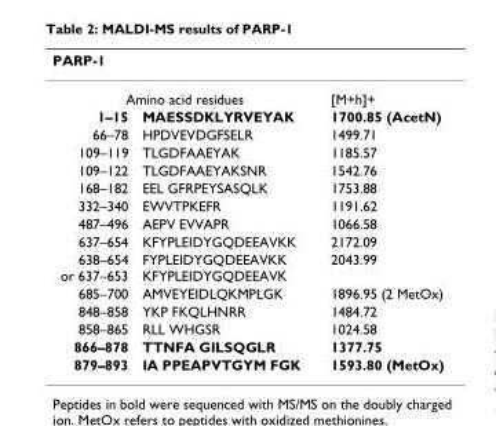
<table><thead><tr><td colspan="3">PARP-1</td></tr><tr><td colspan="2">Amino acid residues</td><td rowspan="2">[M+h]+ 1700.85 (AcetN)</td></tr><tr><td>1–15</td><td>MAESSDKLYRVEYAK</td></tr></thead><tbody><tr><td>66–78</td><td>HPDVEVDGFSELR</td><td>1499.71</td></tr><tr><td>109–119</td><td>TLGDFAAEYAK</td><td>1185.57</td></tr><tr><td>109–122</td><td>TLGDFAAEYAKSNR</td><td>1542.76</td></tr><tr><td>168–182</td><td>EEL GFRPEYSASQLK</td><td>1753.88</td></tr><tr><td>332–340</td><td>EWVTPKEFR</td><td>1191.62</td></tr><tr><td>487–496</td><td>AEPV EVVAPR</td><td>1066.58</td></tr><tr><td>637–654</td><td>KFYPLEIDYGQDEEAVKK</td><td>2172.09</td></tr><tr><td>638–654 or 637–653</td><td>FYPLEIDYGQDEEAVKK KFYPLEIDYGQDEEAVK</td><td>2043.99</td></tr><tr><td>685–700</td><td>AMVEYEIDLQKMPLGK</td><td>1896.95 (2 MetOx)</td></tr><tr><td>848–858</td><td>YKP FKQLHNRR</td><td>1484.72</td></tr><tr><td>858–865</td><td>RLL WHGSR</td><td>1024.58</td></tr><tr><td>866–878</td><td>TTNFA GILSQGLR</td><td>1377.75</td></tr><tr><td>879–893</td><td>IA PPEAPVTGYM FGK</td><td>1593.80 (MetOx)</td></tr></tbody></table>